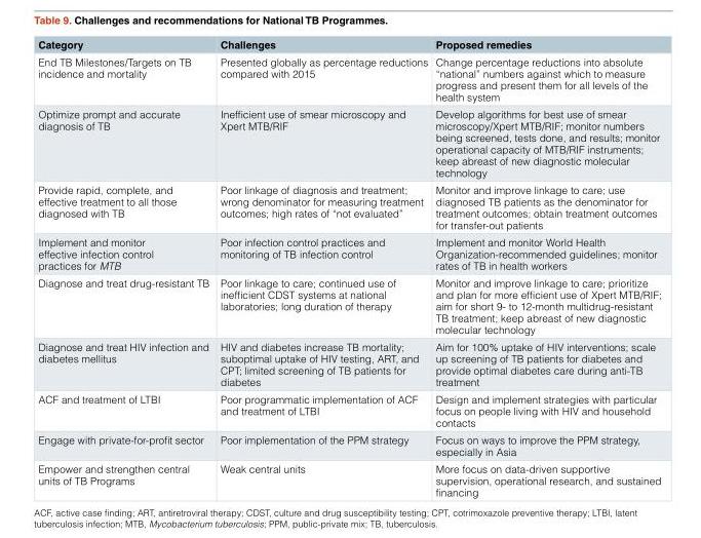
<table><thead><tr><td>Category</td><td>Challenges</td><td>Proposed remedies</td></tr></thead><tbody><tr><td>End TB Milestones/Targets on TB incidence and mortality</td><td>Presented globally as percentage reductions compared with 2015</td><td>Change percentage reductions into absolute “national” numbers against which to measure progress and present them for all levels of the health system</td></tr><tr><td>Optimize prompt and accurate diagnosis of TB</td><td>Inefficient use of smear microscopy and Xpert MTB/RIF</td><td>Develop algorithms for best use of smear microscopy/Xpert MTB/RIF; monitor numbers being screened, tests done, and results; monitor operational capacity of MTB/RIF instruments; keep abreast of new diagnostic molecular technology</td></tr><tr><td>Provide rapid, complete, and effective treatment to all those diagnosed with TB</td><td>Poor linkage of diagnosis and treatment; wrong denominator for measuring treatment outcomes; high rates of “not evaluated”</td><td>Monitor and improve linkage to care; use diagnosed TB patients as the denominator for treatment outcomes; obtain treatment outcomes for transfer-out patients</td></tr><tr><td>Implement and monitor effective infection control practices for MTB</td><td>Poor infection control practices and monitoring of TB infection control</td><td>Implement and monitor World Health Organization-recommended guidelines; monitor rates of TB in health workers</td></tr><tr><td>Diagnose and treat drug-resistant TB</td><td>Poor linkage to care; continued use of inefficient CDST systems at national laboratories; long duration of therapy</td><td>Monitor and improve linkage to care; prioritize and plan for more efficient use of Xpert MTB/RIF; aim for short 9- to 12-month multidrug-resistant TB treatment; keep abreast of new diagnostic molecular technology</td></tr><tr><td>Diagnose and treat HIV infection and diabetes mellitus</td><td>HIV and diabetes increase TB mortality; suboptimal uptake of HIV testing, ART, and CPT; limited screening of TB patients for diabetes</td><td>Aim for 100% uptake of HIV interventions; scale up screening of TB patients for diabetes and provide optimal diabetes care during anti-TB treatment</td></tr><tr><td>ACF and treatment of LTBI</td><td>Poor programmatic implementation of ACF and treatment of LTBI</td><td>Design and implement strategies with particular focus on people living with HIV and household contacts</td></tr><tr><td>Engage with private-for-profit sector</td><td>Poor implementation of the PPM strategy</td><td>Focus on ways to improve the PPM strategy, especially in Asia</td></tr><tr><td>Empower and strengthen central units of TB Programs</td><td>Weak central units</td><td>More focus on data-driven supportive supervision, operational research, and sustained financing</td></tr></tbody></table>